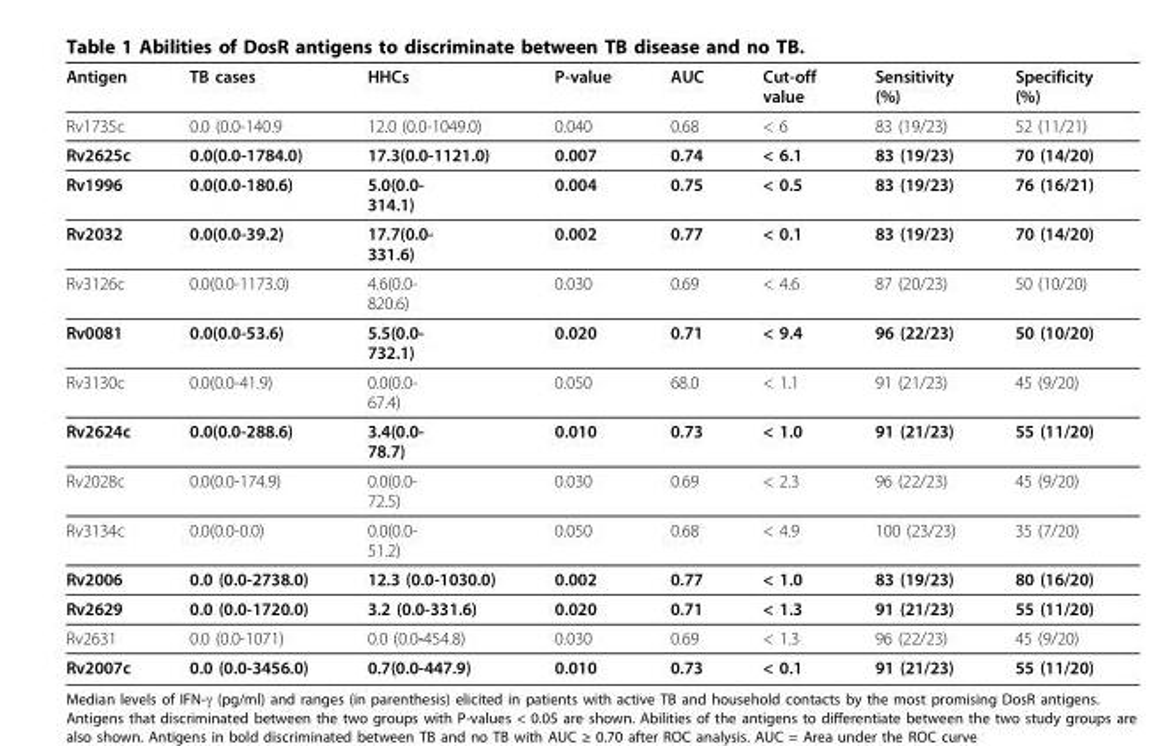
<table><thead><tr><td>Antigen</td><td>TB cases</td><td>HHCs</td><td>P-value</td><td>AUC</td><td>Cut-off value</td><td>Sensitivity (%)</td><td>Specificity (%)</td></tr></thead><tbody><tr><td>Rv1735c</td><td>0.0 (0.0-140.9</td><td>12.0 (0.0-1049.0)</td><td>0.040</td><td>0.68</td><td>&lt; 6</td><td>83 (19/23)</td><td>52 (11/21)</td></tr><tr><td>Rv2625c</td><td>0.0(0.0-1784.0)</td><td>17.3(0.0-1121.0)</td><td>0.007</td><td>0.74</td><td>&lt; 6.1</td><td>83 (19/23)</td><td>70 (14/20)</td></tr><tr><td>Rv1996</td><td>0.0(0.0-180.6)</td><td>5.0(0.0- 314.1)</td><td>0.004</td><td>0.75</td><td>&lt; 0.5</td><td>83 (19/23)</td><td>76 (16/21)</td></tr><tr><td>Rv2032</td><td>0.0(0.0-39.2)</td><td>17.7(0.0- 331.6)</td><td>0.002</td><td>0.77</td><td>&lt; 0.1</td><td>83 (19/23)</td><td>70 (14/20)</td></tr><tr><td>Rv3126c</td><td>0.0(0.0-1173.0)</td><td>4.6(0.0- 820.6)</td><td>0.030</td><td>0.69</td><td>&lt; 4.6</td><td>87 (20/23)</td><td>50 (10/20)</td></tr><tr><td>Rv0081</td><td>0.0(0.0-53.6)</td><td>5.5(0.0- 732.1)</td><td>0.020</td><td>0.71</td><td>&lt; 9.4</td><td>96 (22/23)</td><td>50 (10/20)</td></tr><tr><td>Rv3130c</td><td>0.0(0.0-41.9)</td><td>0.0(0.0- 67.4)</td><td>0.050</td><td>68.0</td><td>&lt; 1.1</td><td>91 (21/23)</td><td>45 (9/20)</td></tr><tr><td>Rv2624c</td><td>0.0(0.0-288.6)</td><td>3.4(0.0- 78.7)</td><td>0.010</td><td>0.73</td><td>&lt; 1.0</td><td>91 (21/23)</td><td>55 (11/20)</td></tr><tr><td>Rv2028c</td><td>0.0(0.0-174.9)</td><td>0.0(0.0- 72.5)</td><td>0.030</td><td>0.69</td><td>&lt; 2.3</td><td>96 (22/23)</td><td>45 (9/20)</td></tr><tr><td>Rv3134c</td><td>0.0(0.0-0.0)</td><td>0.0(0.0- 51.2)</td><td>0.050</td><td>0.68</td><td>&lt; 4.9</td><td>100 (23/23)</td><td>35 (7/20)</td></tr><tr><td>Rv2006</td><td>0.0 (0.0-2738.0)</td><td>12.3 (0.0-1030.0)</td><td>0.002</td><td>0.77</td><td>&lt; 1.0</td><td>83 (19/23)</td><td>80 (16/20)</td></tr><tr><td>Rv2629</td><td>0.0 (0.0-1720.0)</td><td>3.2 (0.0-331.6)</td><td>0.020</td><td>0.71</td><td>&lt; 1.3</td><td>91 (21/23)</td><td>55 (11/20)</td></tr><tr><td>Rv2631</td><td>0.0 (0.0-1071)</td><td>0.0 (0.0-454.8)</td><td>0.030</td><td>0.69</td><td>&lt; 1.3</td><td>96 (22/23)</td><td>45 (9/20)</td></tr><tr><td>Rv2007c</td><td>0.0 (0.0-3456.0)</td><td>0.7(0.0-447.9)</td><td>0.010</td><td>0.73</td><td>&lt; 0.1</td><td>91 (21/23)</td><td>55 (11/20)</td></tr></tbody></table>